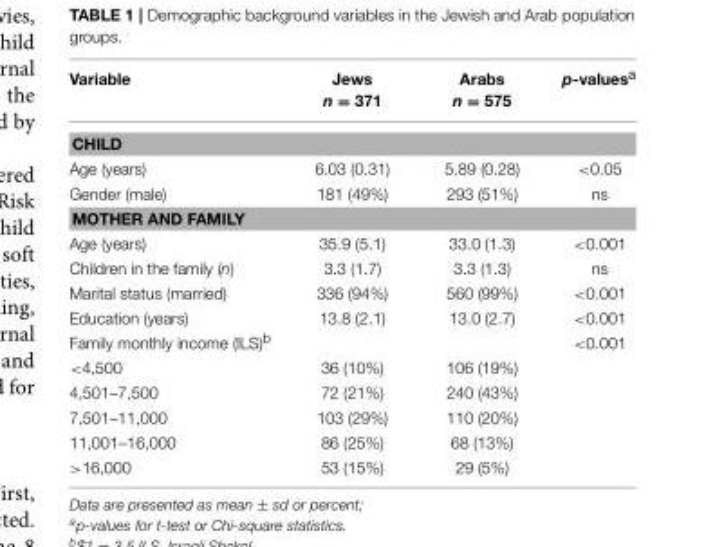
<table><thead><tr><td>Variable</td><td>Jews n = 371</td><td>Arabs n = 575</td><td>p-values<sup>a</sup></td></tr></thead><tbody><tr><td colspan="4">CHILD</td></tr><tr><td>Age (years)</td><td>6.03 (0.31)</td><td>5.89 (0.28)</td><td>&lt;0.05</td></tr><tr><td>Gender (male)</td><td>181 (49%)</td><td>293 (51%)</td><td>ns</td></tr><tr><td colspan="4">MOTHER AND FAMILY</td></tr><tr><td>Age (years)</td><td>35.9 (5.1)</td><td>33.0 (1.3)</td><td>&lt;0.001</td></tr><tr><td>Children in the family (n)</td><td>3.3 (1.7)</td><td>3.3 (1.3)</td><td>ns</td></tr><tr><td>Marital status (married)</td><td>336 (94%)</td><td>560 (99%)</td><td>&lt;0.001</td></tr><tr><td>Education (years)</td><td>13.8 (2.1)</td><td>13.0 (2.7)</td><td>&lt;0.001</td></tr><tr><td>Family monthly income (ILS)<sup>b</sup></td><td></td><td></td><td>&lt;0.001</td></tr><tr><td>&lt;4,500</td><td>36 (10%)</td><td>106 (19%)</td><td></td></tr><tr><td>4,501–7,500</td><td>72 (21%)</td><td>240 (43%)</td><td></td></tr><tr><td>7,501–11,000</td><td>103 (29%)</td><td>110 (20%)</td><td></td></tr><tr><td>11,001–16,000</td><td>86 (25%)</td><td>68 (13%)</td><td></td></tr><tr><td>&gt;16,000</td><td>53 (15%)</td><td>29 (5%)</td><td></td></tr></tbody></table>